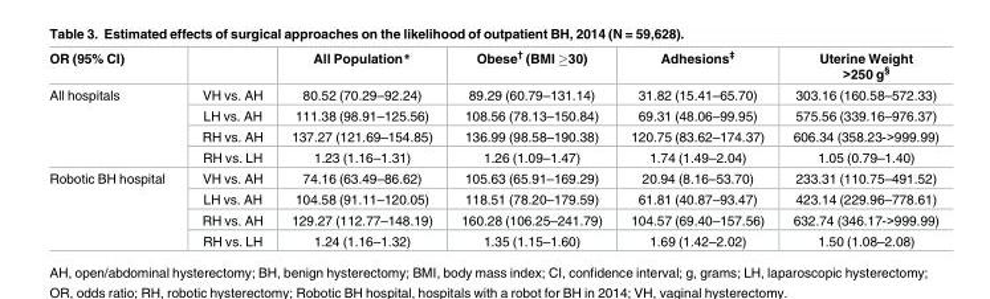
<table><thead><tr><td>OR (95% CI)</td><td></td><td>All Population*</td><td>Obese<sup>†</sup> (BMI ≥30)</td><td>Adhesions<sup>‡</sup></td><td>Uterine Weight &gt;250 g<sup>§</sup></td></tr></thead><tbody><tr><td rowspan="4">All hospitals</td><td>VH vs. AH</td><td>80.52 (70.29–92.24)</td><td>89.29 (60.79–131.14)</td><td>31.82 (15.41–65.70)</td><td>303.16 (160.58–572.33)</td></tr><tr><td>LH vs. AH</td><td>111.38 (98.91–125.56)</td><td>108.56 (78.13–150.84)</td><td>69.31 (48.06–99.95)</td><td>575.56 (339.16–976.37)</td></tr><tr><td>RH vs. AH</td><td>137.27 (121.69–154.85)</td><td>136.99 (98.58–190.38)</td><td>120.75 (83.62–174.37)</td><td>606.34 (358.23-&gt;999.99)</td></tr><tr><td>RH vs. LH</td><td>1.23 (1.16–1.31)</td><td>1.26 (1.09–1.47)</td><td>1.74 (1.49–2.04)</td><td>1.05 (0.79–1.40)</td></tr><tr><td rowspan="4">Robotic BH hospital</td><td>VH vs. AH</td><td>74.16 (63.49–86.62)</td><td>105.63 (65.91–169.29)</td><td>20.94 (8.16–53.70)</td><td>233.31 (110.75–491.52)</td></tr><tr><td>LH vs. AH</td><td>104.58 (91.11–120.05)</td><td>118.51 (78.20–179.59)</td><td>61.81 (40.87–93.47)</td><td>423.14 (229.96–778.61)</td></tr><tr><td>RH vs. AH</td><td>129.27 (112.77–148.19)</td><td>160.28 (106.25–241.79)</td><td>104.57 (69.40–157.56)</td><td>632.74 (346.17-&gt;999.99)</td></tr><tr><td>RH vs. LH</td><td>1.24 (1.16–1.32)</td><td>1.35 (1.15–1.60)</td><td>1.69 (1.42–2.02)</td><td>1.50 (1.08–2.08)</td></tr></tbody></table>